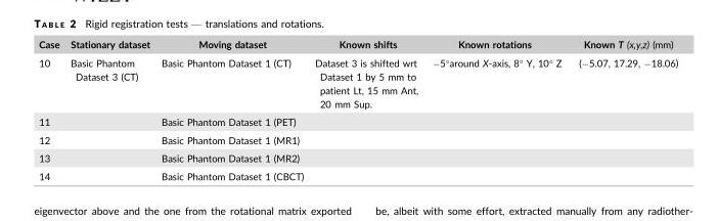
<table><thead><tr><td>Case</td><td>Stationary dataset</td><td>Moving dataset</td><td>Known shifts</td><td>Known rotations</td><td>Known T (x,y,z) (mm)</td></tr></thead><tbody><tr><td>10</td><td>Basic Phantom Dataset 3 (CT)</td><td>Basic Phantom Dataset 1 (CT)</td><td>Dataset 3 is shifted wrt Dataset 1 by 5 mm to patient Lt, 15 mm Ant, 20 mm Sup.</td><td>−5°around X-axis, 8° Y, 10° Z</td><td>(−5.07, 17.29, −18.06)</td></tr><tr><td>11</td><td></td><td>Basic Phantom Dataset 1 (PET)</td><td></td><td></td><td></td></tr><tr><td>12</td><td></td><td>Basic Phantom Dataset 1 (MR1)</td><td></td><td></td><td></td></tr><tr><td>13</td><td></td><td>Basic Phantom Dataset 1 (MR2)</td><td></td><td></td><td></td></tr><tr><td>14</td><td></td><td>Basic Phantom Dataset 1 (CBCT)</td><td></td><td></td><td></td></tr></tbody></table>